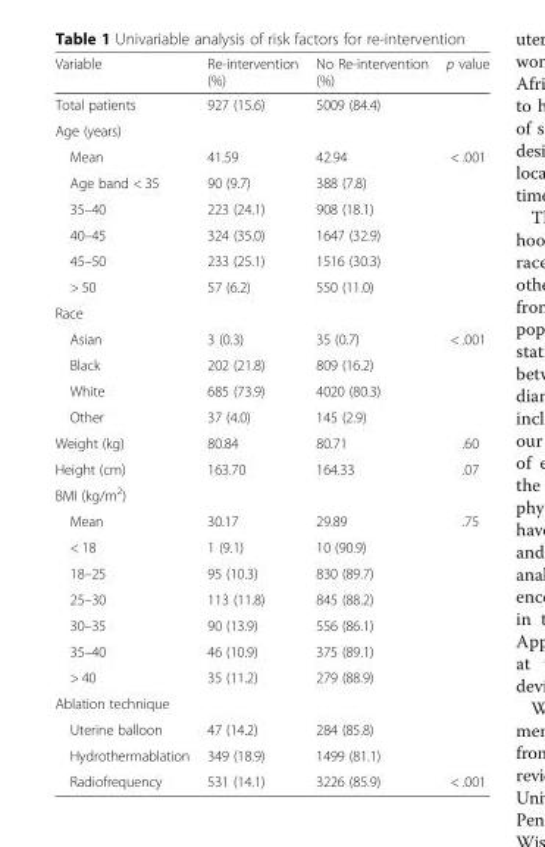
<table><thead><tr><td>Variable</td><td>Re-intervention (%)</td><td>No Re-intervention (%)</td><td>p value</td></tr></thead><tbody><tr><td>Total patients</td><td>927 (15.6)</td><td>5009 (84.4)</td><td></td></tr><tr><td colspan="4">Age (years)</td></tr><tr><td>Mean</td><td>41.59</td><td>42.94</td><td rowspan="6">&lt; .001</td></tr><tr><td>Age band &lt; 35</td><td>90 (9.7)</td><td>388 (7.8)</td></tr><tr><td>35–40</td><td>223 (24.1)</td><td>908 (18.1)</td></tr><tr><td>40–45</td><td>324 (35.0)</td><td>1647 (32.9)</td></tr><tr><td>45–50</td><td>233 (25.1)</td><td>1516 (30.3)</td></tr><tr><td>&gt; 50</td><td>57 (6.2)</td><td>550 (11.0)</td></tr><tr><td colspan="4">Race</td></tr><tr><td>Asian</td><td>3 (0.3)</td><td>35 (0.7)</td><td rowspan="4">&lt; .001</td></tr><tr><td>Black</td><td>202 (21.8)</td><td>809 (16.2)</td></tr><tr><td>White</td><td>685 (73.9)</td><td>4020 (80.3)</td></tr><tr><td>Other</td><td>37 (4.0)</td><td>145 (2.9)</td></tr><tr><td>Weight (kg)</td><td>80.84</td><td>80.71</td><td>.60</td></tr><tr><td>Height (cm)</td><td>163.70</td><td>164.33</td><td>.07</td></tr><tr><td colspan="4">BMI (kg/m<sup>2</sup>)</td></tr><tr><td>Mean</td><td>30.17</td><td>29.89</td><td rowspan="7">.75</td></tr><tr><td>&lt; 18</td><td>1 (9.1)</td><td>10 (90.9)</td></tr><tr><td>18–25</td><td>95 (10.3)</td><td>830 (89.7)</td></tr><tr><td>25–30</td><td>113 (11.8)</td><td>845 (88.2)</td></tr><tr><td>30–35</td><td>90 (13.9)</td><td>556 (86.1)</td></tr><tr><td>35–40</td><td>46 (10.9)</td><td>375 (89.1)</td></tr><tr><td>&gt; 40</td><td>35 (11.2)</td><td>279 (88.9)</td></tr><tr><td colspan="4">Ablation technique</td></tr><tr><td>Uterine balloon</td><td>47 (14.2)</td><td>284 (85.8)</td><td rowspan="2"></td></tr><tr><td>Hydrothermablation</td><td>349 (18.9)</td><td>1499 (81.1)</td></tr><tr><td>Radiofrequency</td><td>531 (14.1)</td><td>3226 (85.9)</td><td>&lt; .001</td></tr></tbody></table>